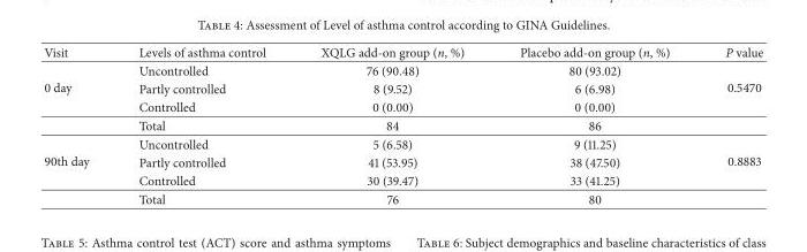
<table><thead><tr><td>Visit</td><td>Levels of asthma control</td><td>XQLG add-on group (n, %)</td><td>Placebo add-on group (n, %)</td><td>P value</td></tr></thead><tbody><tr><td rowspan="4">0 day</td><td>Uncontrolled</td><td>76 (90.48)</td><td>80 (93.02)</td><td rowspan="3">0.5470</td></tr><tr><td>Partly controlled</td><td>8 (9.52)</td><td>6 (6.98)</td></tr><tr><td>Controlled</td><td>0 (0.00)</td><td>0 (0.00)</td></tr><tr><td>Total</td><td>84</td><td>86</td><td></td></tr><tr><td rowspan="4">90th day</td><td>Uncontrolled</td><td>5 (6.58)</td><td>9 (11.25)</td><td rowspan="3">0.8883</td></tr><tr><td>Partly controlled</td><td>41 (53.95)</td><td>38 (47.50)</td></tr><tr><td>Controlled</td><td>30 (39.47)</td><td>33 (41.25)</td></tr><tr><td>Total</td><td>76</td><td>80</td><td></td></tr></tbody></table>